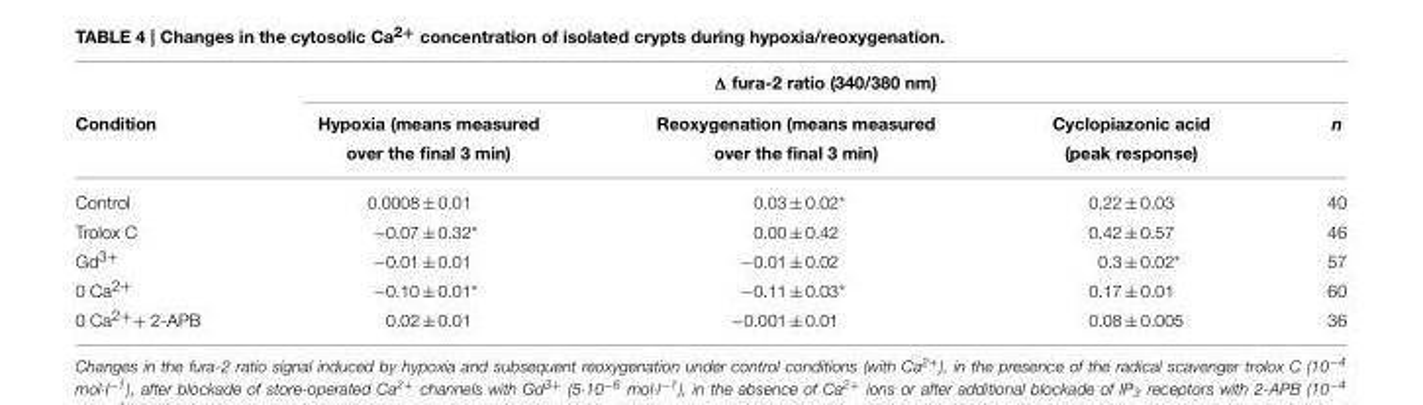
<table><thead><tr><td rowspan="2">Condition</td><td colspan="4">Δ fura-2 ratio (340/380 nm)</td></tr><tr><td>Hypoxia (means measured over the final 3 min)</td><td>Reoxygenation (means measured over the final 3 min)</td><td>Cyclopiazonic acid (peak response)</td><td>n</td></tr></thead><tbody><tr><td>Control</td><td>0.0008 ± 0.01</td><td>0.03 ± 0.02*</td><td>0.22 ± 0.03</td><td>40</td></tr><tr><td>Trolox C</td><td>−0.07 ± 0.32*</td><td>0.00 ± 0.42</td><td>0.42 ± 0.57</td><td>46</td></tr><tr><td>Gd<sup>3+</sup></td><td>−0.01 ± 0.01</td><td>−0.01 ± 0.02</td><td>0.3 ± 0.02*</td><td>57</td></tr><tr><td>0 Ca<sup>2+</sup></td><td>−0.10 ± 0.01*</td><td>−0.11 ± 0.03*</td><td>0.17 ± 0.01</td><td>60</td></tr><tr><td>0 Ca<sup>2+</sup>+ 2-APB</td><td>0.02 ± 0.01</td><td>−0.001 ± 0.01</td><td>0.08 ± 0.005</td><td>36</td></tr></tbody></table>